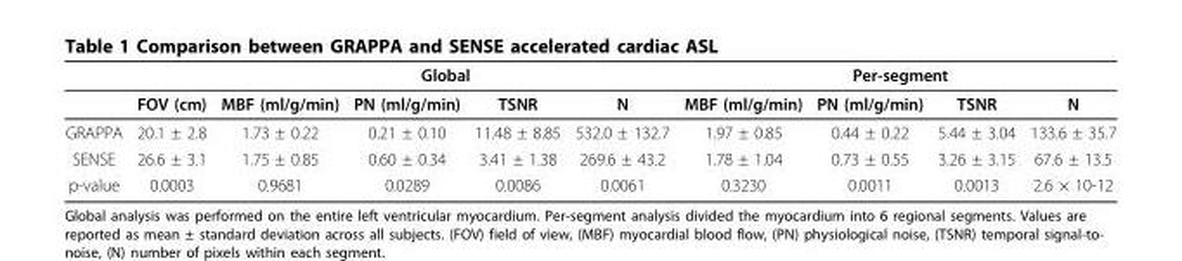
<table><thead><tr><td rowspan="2"></td><td rowspan="2">FOV (cm)</td><td colspan="4">Global</td><td colspan="4">Per-segment</td></tr><tr><td>MBF (ml/g/min)</td><td>PN (ml/g/min)</td><td>TSNR</td><td>N</td><td>MBF (ml/g/min)</td><td>PN (ml/g/min)</td><td>TSNR</td><td>N</td></tr></thead><tbody><tr><td>GRAPPA</td><td>20.1 ± 2.8</td><td>1.73 ± 0.22</td><td>0.21 ± 0.10</td><td>11.48 ± 8.85</td><td>532.0 ± 132.7</td><td>1.97 ± 0.85</td><td>0.44 ± 0.22</td><td>5.44 ± 3.04</td><td>133.6 ± 35.7</td></tr><tr><td>SENSE</td><td>26.6 ± 3.1</td><td>1.75 ± 0.85</td><td>0.60 ± 0.34</td><td>3.41 ± 1.38</td><td>269.6 ± 43.2</td><td>1.78 ± 1.04</td><td>0.73 ± 0.55</td><td>3.26 ± 3.15</td><td>67.6 ± 13.5</td></tr><tr><td>p-value</td><td>0.0003</td><td>0.9681</td><td>0.0289</td><td>0.0086</td><td>0.0061</td><td>0.3230</td><td>0.0011</td><td>0.0013</td><td>2.6 × 10-12</td></tr></tbody></table>